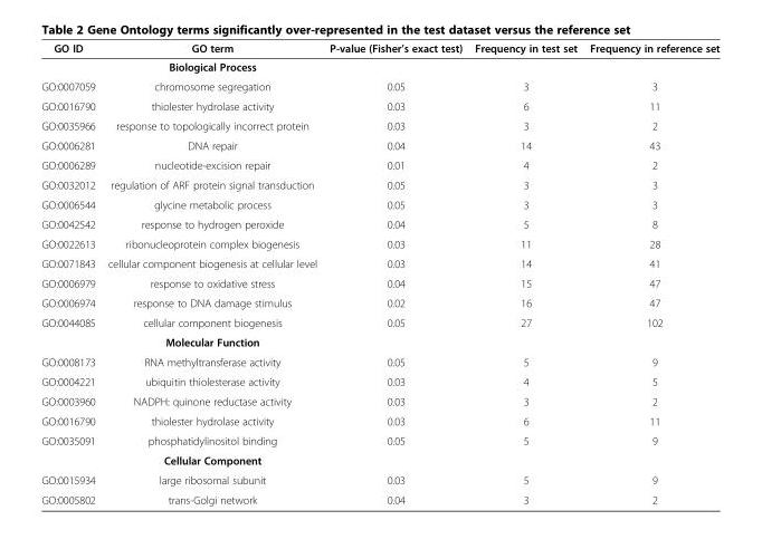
<table><thead><tr><td>GO ID</td><td>GO term</td><td>P-value (Fisher’s exact test)</td><td>Frequency in test set</td><td>Frequency in reference set</td></tr></thead><tbody><tr><td></td><td>Biological Process</td><td></td><td></td><td></td></tr><tr><td>GO:0007059</td><td>chromosome segregation</td><td>0.05</td><td>3</td><td>3</td></tr><tr><td>GO:0016790</td><td>thiolester hydrolase activity</td><td>0.03</td><td>6</td><td>11</td></tr><tr><td>GO:0035966</td><td>response to topologically incorrect protein</td><td>0.03</td><td>3</td><td>2</td></tr><tr><td>GO:0006281</td><td>DNA repair</td><td>0.04</td><td>14</td><td>43</td></tr><tr><td>GO:0006289</td><td>nucleotide-excision repair</td><td>0.01</td><td>4</td><td>2</td></tr><tr><td>GO:0032012</td><td>regulation of ARF protein signal transduction</td><td>0.05</td><td>3</td><td>3</td></tr><tr><td>GO:0006544</td><td>glycine metabolic process</td><td>0.05</td><td>3</td><td>3</td></tr><tr><td>GO:0042542</td><td>response to hydrogen peroxide</td><td>0.04</td><td>5</td><td>8</td></tr><tr><td>GO:0022613</td><td>ribonucleoprotein complex biogenesis</td><td>0.03</td><td>11</td><td>28</td></tr><tr><td>GO:0071843</td><td>cellular component biogenesis at cellular level</td><td>0.03</td><td>14</td><td>41</td></tr><tr><td>GO:0006979</td><td>response to oxidative stress</td><td>0.04</td><td>15</td><td>47</td></tr><tr><td>GO:0006974</td><td>response to DNA damage stimulus</td><td>0.02</td><td>16</td><td>47</td></tr><tr><td rowspan="2">GO:0044085</td><td>cellular component biogenesis</td><td>0.05</td><td>27</td><td>102</td></tr><tr><td>Molecular Function</td><td></td><td></td><td></td></tr><tr><td>GO:0008173</td><td>RNA methyltransferase activity</td><td>0.05</td><td>5</td><td>9</td></tr><tr><td>GO:0004221</td><td>ubiquitin thiolesterase activity</td><td>0.03</td><td>4</td><td>5</td></tr><tr><td>GO:0003960</td><td>NADPH: quinone reductase activity</td><td>0.03</td><td>3</td><td>2</td></tr><tr><td>GO:0016790</td><td>thiolester hydrolase activity</td><td>0.03</td><td>6</td><td>11</td></tr><tr><td rowspan="2">GO:0035091</td><td>phosphatidylinositol binding</td><td>0.05</td><td>5</td><td>9</td></tr><tr><td>Cellular Component</td><td></td><td></td><td></td></tr><tr><td>GO:0015934</td><td>large ribosomal subunit</td><td>0.03</td><td>5</td><td>9</td></tr><tr><td>GO:0005802</td><td>trans-Golgi network</td><td>0.04</td><td>3</td><td>2</td></tr></tbody></table>